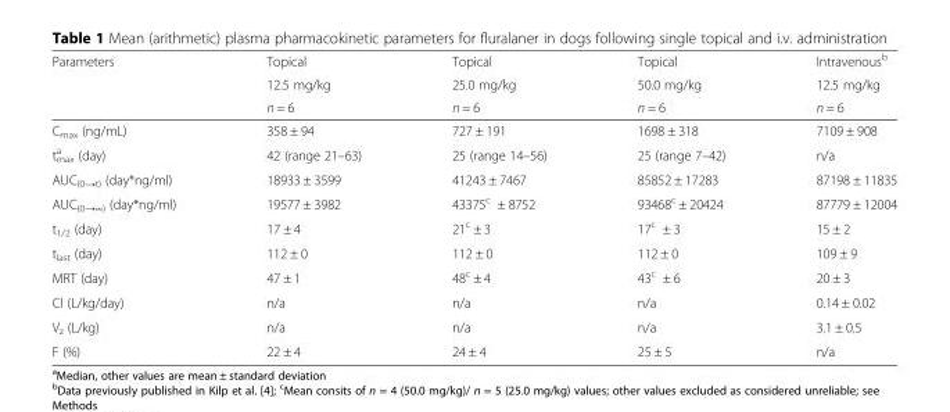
<table><thead><tr><td rowspan="3">Parameters</td><td rowspan="3">Topical 12.5 mg/kg n = 6</td><td rowspan="3">Topical 25.0 mg/kg n = 6</td><td rowspan="3">Topical 50.0 mg/kg n = 6</td><td rowspan="3">Intravenous<sup>b</sup> 12.5 mg/kg n = 6</td></tr><tr></tr><tr></tr></thead><tbody><tr><td>C<sub>max</sub> (ng/mL)</td><td>358 ± 94</td><td>727 ± 191</td><td>1698 ± 318</td><td>7109 ± 908</td></tr><tr><td>t<sub>max</sub> <sup>a</sup> (day)</td><td>42 (range 21–63)</td><td>25 (range 14–56)</td><td>25 (range 7–42)</td><td>n/a</td></tr><tr><td>AUC<sub>(0→t)</sub> (day*ng/ml)</td><td>18933 ± 3599</td><td>41243 ± 7467</td><td>85852 ± 17283</td><td>87198 ± 11835</td></tr><tr><td>AUC<sub>(0→∞)</sub> (day*ng/ml)</td><td>19577 ± 3982</td><td>43375<sup>c</sup> ± 8752</td><td>93468<sup>c</sup> ± 20424</td><td>87779 ± 12004</td></tr><tr><td>t<sub>1/2</sub> (day)</td><td>17 ± 4</td><td>21<sup>c</sup> ± 3</td><td>17<sup>c</sup> ± 3</td><td>15 ± 2</td></tr><tr><td>t<sub>last</sub> (day)</td><td>112 ± 0</td><td>112 ± 0</td><td>112 ± 0</td><td>109 ± 9</td></tr><tr><td>MRT (day)</td><td>47 ± 1</td><td>48<sup>c</sup> ± 4</td><td>43<sup>c</sup> ± 6</td><td>20 ± 3</td></tr><tr><td>Cl (L/kg/day)</td><td>n/a</td><td>n/a</td><td>n/a</td><td>0.14 ± 0.02</td></tr><tr><td>V<sub>z</sub> (L/kg)</td><td>n/a</td><td>n/a</td><td>n/a</td><td>3.1 ± 0.5</td></tr><tr><td>F (%)</td><td>22 ± 4</td><td>24 ± 4</td><td>25 ± 5</td><td>n/a</td></tr></tbody></table>